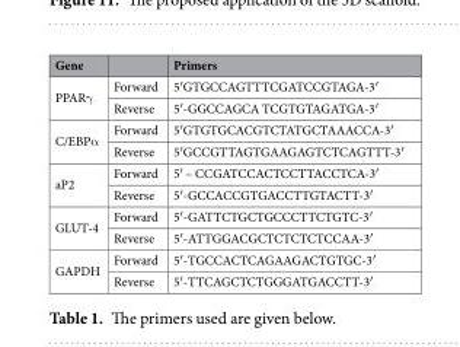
<table><thead><tr><td>Gene</td><td></td><td>Primers</td></tr></thead><tbody><tr><td rowspan="2">PPARγ</td><td>Forward</td><td>5′GTGCCAGTTTCGATCCGTAGA-3′</td></tr><tr><td>Reverse</td><td>5′-GGCCAGCA TCGTGTAGATGA-3′</td></tr><tr><td rowspan="2">C/EBPα</td><td>Forward</td><td>5′GTGTGCACGTCTATGCTAAACCA-3′</td></tr><tr><td>Reverse</td><td>5′GCCGTTAGTGAAGAGTCTCAGTTT-3′</td></tr><tr><td rowspan="2">aP2</td><td>Forward</td><td>5′ – CCGATCCACTCCTTACCTCA-3′</td></tr><tr><td>Reverse</td><td>5′-GCCACCGTGACCTTGTACTT-3′</td></tr><tr><td rowspan="2">GLUT-4</td><td>Forward</td><td>5′-GATTCTGCTGCCCTTCTGTC-3′</td></tr><tr><td>Reverse</td><td>5′-ATTGGACGCTCTCTCTCCAA-3′</td></tr><tr><td rowspan="2">GAPDH</td><td>Forward</td><td>5′-TGCCACTCAGAAGACTGTGC-3′</td></tr><tr><td>Reverse</td><td>5′-TTCAGCTCTGGGATGACCTT-3′</td></tr></tbody></table>